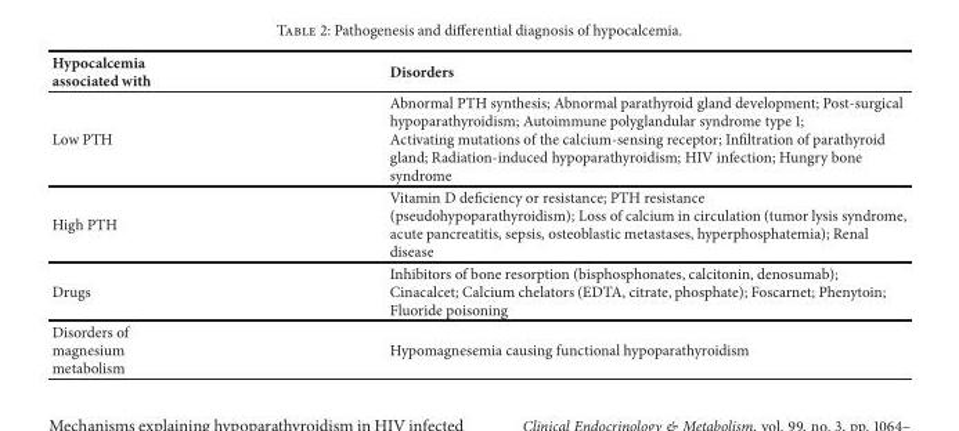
<table><thead><tr><td>Hypocalcemia associated with</td><td>Disorders</td></tr></thead><tbody><tr><td>Low PTH</td><td>Abnormal PTH synthesis; Abnormal parathyroid gland development; Post-surgical hypoparathyroidism; Autoimmune polyglandular syndrome type 1; Activating mutations of the calcium-sensing receptor; Infiltration of parathyroid gland; Radiation-induced hypoparathyroidism; HIV infection; Hungry bone syndrome</td></tr><tr><td>High PTH</td><td>Vitamin D deficiency or resistance; PTH resistance (pseudohypoparathyroidism); Loss of calcium in circulation (tumor lysis syndrome, acute pancreatitis, sepsis, osteoblastic metastases, hyperphosphatemia); Renal disease</td></tr><tr><td>Drugs</td><td>Inhibitors of bone resorption (bisphosphonates, calcitonin, denosumab); Cinacalcet; Calcium chelators (EDTA, citrate, phosphate); Foscarnet; Phenytoin; Fluoride poisoning</td></tr><tr><td>Disorders of magnesium metabolism</td><td>Hypomagnesemia causing functional hypoparathyroidism</td></tr></tbody></table>